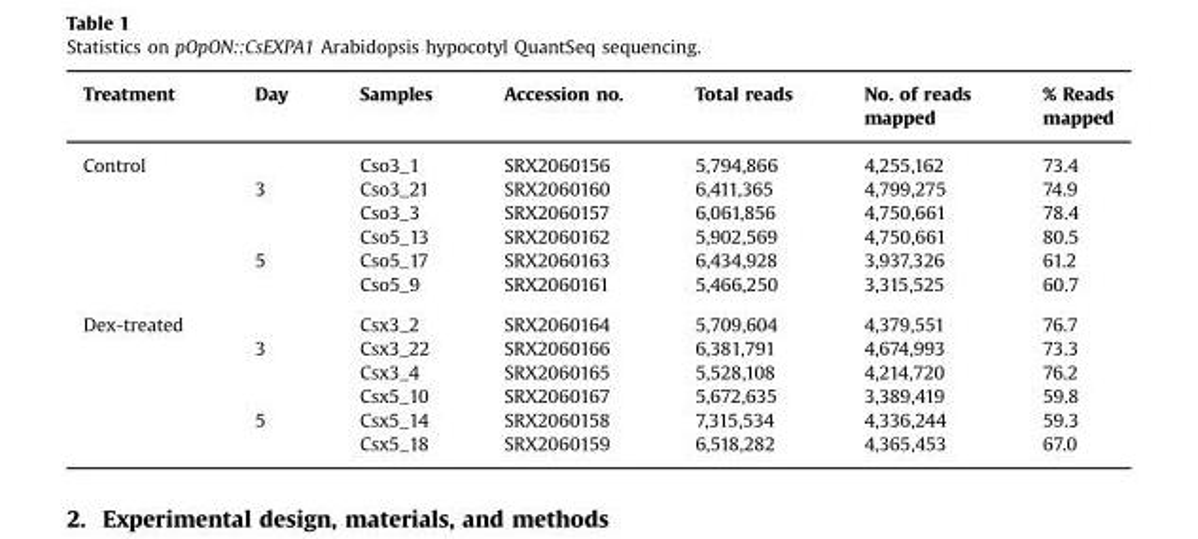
<table><thead><tr><td>Treatment</td><td>Day</td><td>Samples</td><td>Accession no.</td><td>Total reads</td><td>No. of reads mapped</td><td>% Reads mapped</td></tr></thead><tbody><tr><td rowspan="6">Control</td><td></td><td>Cso3_1</td><td>SRX2060156</td><td>5,794,866</td><td>4,255,162</td><td>73.4</td></tr><tr><td>3</td><td>Cso3_21</td><td>SRX2060160</td><td>6,411,365</td><td>4,799,275</td><td>74.9</td></tr><tr><td></td><td>Cso3_3</td><td>SRX2060157</td><td>6,061,856</td><td>4,750,661</td><td>78.4</td></tr><tr><td></td><td>Cso5_13</td><td>SRX2060162</td><td>5,902,569</td><td>4,750,661</td><td>80.5</td></tr><tr><td>5</td><td>Cso5_17</td><td>SRX2060163</td><td>6,434,928</td><td>3,937,326</td><td>61.2</td></tr><tr><td></td><td>Cso5_9</td><td>SRX2060161</td><td>5,466,250</td><td>3,315,525</td><td>60.7</td></tr><tr><td rowspan="6">Dex-treated</td><td></td><td>Csx3_2</td><td>SRX2060164</td><td>5,709,604</td><td>4,379,551</td><td>76.7</td></tr><tr><td>3</td><td>Csx3_22</td><td>SRX2060166</td><td>6,381,791</td><td>4,674,993</td><td>73.3</td></tr><tr><td></td><td>Csx3_4</td><td>SRX2060165</td><td>5,528,108</td><td>4,214,720</td><td>76.2</td></tr><tr><td></td><td>Csx5_10</td><td>SRX2060167</td><td>5,672,635</td><td>3,389,419</td><td>59.8</td></tr><tr><td>5</td><td>Csx5_14</td><td>SRX2060158</td><td>7,315,534</td><td>4,336,244</td><td>59.3</td></tr><tr><td></td><td>Csx5_18</td><td>SRX2060159</td><td>6,518,282</td><td>4,365,453</td><td>67.0</td></tr></tbody></table>